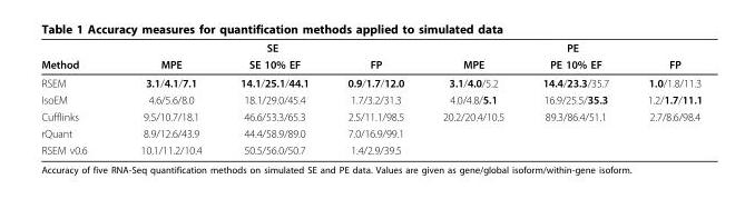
<table><thead><tr><td rowspan="2">Method</td><td colspan="3">SE</td><td colspan="3">PE</td></tr><tr><td>MPE</td><td>SE 10% EF</td><td>FP</td><td>MPE</td><td>PE 10% EF</td><td>FP</td></tr></thead><tbody><tr><td>RSEM</td><td>3.1/4.1/7.1</td><td>14.1/25.1/44.1</td><td>0.9/1.7/12.0</td><td>3.1/4.0/5.2</td><td>14.4/23.3/35.7</td><td>1.0/1.8/11.3</td></tr><tr><td>IsoEM</td><td>4.6/5.6/8.0</td><td>18.1/29.0/45.4</td><td>1.7/3.2/31.3</td><td>4.0/4.8/5.1</td><td>16.9/25.5/35.3</td><td>1.2/1.7/11.1</td></tr><tr><td>Cufflinks</td><td>9.5/10.7/18.1</td><td>46.6/53.3/65.3</td><td>2.5/11.1/98.5</td><td>20.2/20.4/10.5</td><td>89.3/86.4/51.1</td><td>2.7/8.6/98.4</td></tr><tr><td>rQuant</td><td>8.9/12.6/43.9</td><td>44.4/58.9/89.0</td><td>7.0/16.9/99.1</td><td></td><td></td><td></td></tr><tr><td>RSEM v0.6</td><td>10.1/11.2/10.4</td><td>50.5/56.0/50.7</td><td>1.4/2.9/39.5</td><td></td><td></td><td></td></tr></tbody></table>